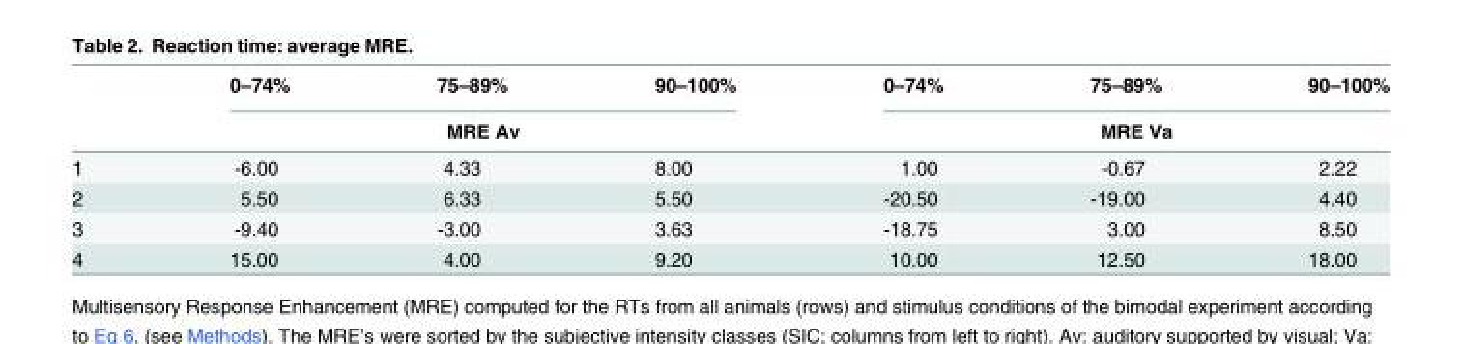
<table><thead><tr><td rowspan="2"></td><td>0–74%</td><td>75–89%</td><td>90–100%</td><td>0–74%</td><td>75–89%</td><td>90–100%</td></tr><tr><td colspan="3">MRE Av</td><td colspan="3">MRE Va</td></tr></thead><tbody><tr><td>1</td><td>-6.00</td><td>4.33</td><td>8.00</td><td>1.00</td><td>-0.67</td><td>2.22</td></tr><tr><td>2</td><td>5.50</td><td>6.33</td><td>5.50</td><td>-20.50</td><td>-19.00</td><td>4.40</td></tr><tr><td>3</td><td>-9.40</td><td>-3.00</td><td>3.63</td><td>-18.75</td><td>3.00</td><td>8.50</td></tr><tr><td>4</td><td>15.00</td><td>4.00</td><td>9.20</td><td>10.00</td><td>12.50</td><td>18.00</td></tr></tbody></table>